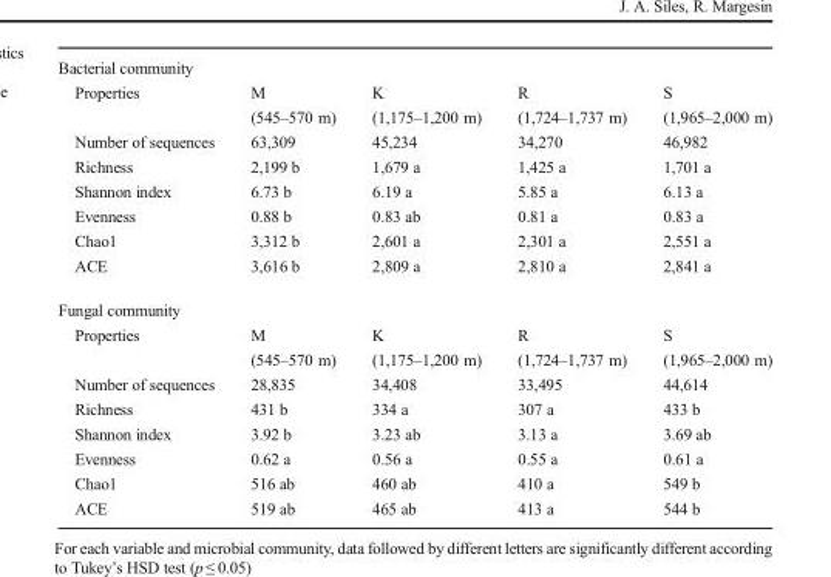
<table><tbody><tr><td colspan="5">Bacterial community</td></tr><tr><td rowspan="2">Properties</td><td>M</td><td>K</td><td>R</td><td>S</td></tr><tr><td>(545–570 m)</td><td>(1,175–1,200 m)</td><td>(1,724–1,737 m)</td><td>(1,965–2,000 m)</td></tr><tr><td>Number of sequences</td><td>63,309</td><td>45,234</td><td>34,270</td><td>46,982</td></tr><tr><td>Richness</td><td>2,199 b</td><td>1,679 a</td><td>1,425 a</td><td>1,701 a</td></tr><tr><td>Shannon index</td><td>6.73 b</td><td>6.19 a</td><td>5.85 a</td><td>6.13 a</td></tr><tr><td>Evenness</td><td>0.88 b</td><td>0.83 ab</td><td>0.81 a</td><td>0.83 a</td></tr><tr><td>Chao1</td><td>3,312 b</td><td>2,601 a</td><td>2,301 a</td><td>2,551 a</td></tr><tr><td>ACE</td><td>3,616 b</td><td>2,809 a</td><td>2,810 a</td><td>2,841 a</td></tr><tr><td colspan="5">Fungal community</td></tr><tr><td rowspan="2">Properties</td><td>M</td><td>K</td><td>R</td><td>S</td></tr><tr><td>(545–570 m)</td><td>(1,175–1,200 m)</td><td>(1,724–1,737 m)</td><td>(1,965–2,000 m)</td></tr><tr><td>Number of sequences</td><td>28,835</td><td>34,408</td><td>33,495</td><td>44,614</td></tr><tr><td>Richness</td><td>431 b</td><td>334 a</td><td>307 a</td><td>433 b</td></tr><tr><td>Shannon index</td><td>3.92 b</td><td>3.23 ab</td><td>3.13 a</td><td>3.69 ab</td></tr><tr><td>Evenness</td><td>0.62 a</td><td>0.56 a</td><td>0.55 a</td><td>0.61 a</td></tr><tr><td>Chao1</td><td>516 ab</td><td>460 ab</td><td>410 a</td><td>549 b</td></tr><tr><td>ACE</td><td>519 ab</td><td>465 ab</td><td>413 a</td><td>544 b</td></tr></tbody></table>